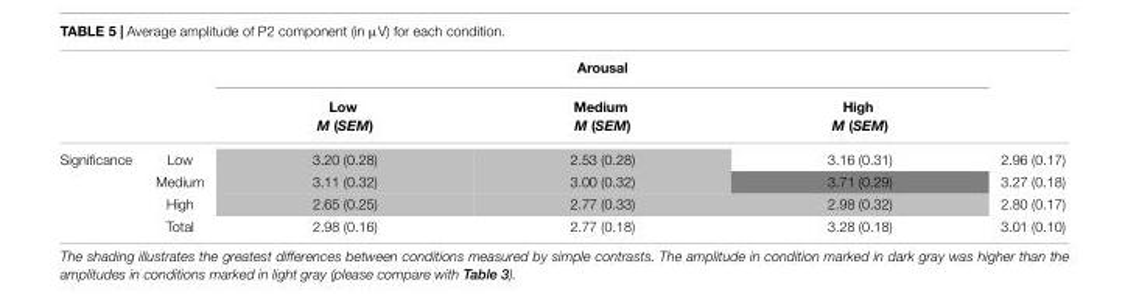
<table><thead><tr><td rowspan="2"></td><td rowspan="2"></td><td colspan="3">Arousal</td><td rowspan="2"></td></tr><tr><td>Low M (SEM)</td><td>Medium M (SEM)</td><td>High M (SEM)</td></tr></thead><tbody><tr><td rowspan="4">Significance</td><td>Low</td><td>3.20 (0.28)</td><td>2.53 (0.28)</td><td>3.16 (0.31)</td><td>2.96 (0.17)</td></tr><tr><td>Medium</td><td>3.11 (0.32)</td><td>3.00 (0.32)</td><td>3.71 (0.29)</td><td>3.27 (0.18)</td></tr><tr><td>High</td><td>2.65 (0.25)</td><td>2.77 (0.33)</td><td>2.98 (0.32)</td><td>2.80 (0.17)</td></tr><tr><td>Total</td><td>2.98 (0.16)</td><td>2.77 (0.18)</td><td>3.28 (0.18)</td><td>3.01 (0.10)</td></tr></tbody></table>